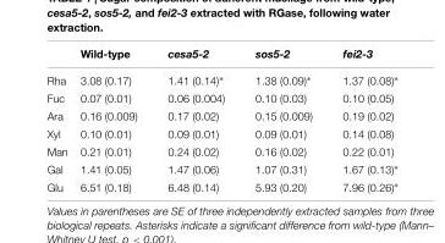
<table><thead><tr><td></td><td>Wild-type</td><td>cesa5-2</td><td>sos5-2</td><td>fei2-3</td></tr></thead><tbody><tr><td>Rha</td><td>3.08 (0.17)</td><td>1.41 (0.14)∗</td><td>1.38 (0.09)∗</td><td>1.37 (0.08)∗</td></tr><tr><td>Fuc</td><td>0.07 (0.01)</td><td>0.06 (0.004)</td><td>0.10 (0.03)</td><td>0.10 (0.05)</td></tr><tr><td>Ara</td><td>0.16 (0.009)</td><td>0.17 (0.02)</td><td>0.15 (0.009)</td><td>0.19 (0.02)</td></tr><tr><td>Xyl</td><td>0.10 (0.01)</td><td>0.09 (0.01)</td><td>0.09 (0.01)</td><td>0.14 (0.08)</td></tr><tr><td>Man</td><td>0.21 (0.01)</td><td>0.24 (0.02)</td><td>0.16 (0.02)</td><td>0.22 (0.01)</td></tr><tr><td>Gal</td><td>1.41 (0.05)</td><td>1.47 (0.06)</td><td>1.07 (0.31)</td><td>1.67 (0.13)∗</td></tr><tr><td>Glu</td><td>6.51 (0.18)</td><td>6.48 (0.14)</td><td>5.93 (0.20)</td><td>7.96 (0.26)∗</td></tr></tbody></table>